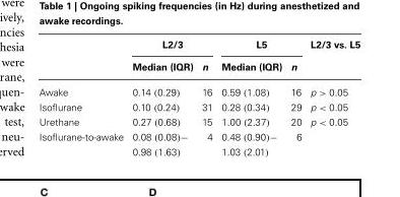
<table><thead><tr><td rowspan="2"></td><td colspan="2">L2/3</td><td colspan="2">L5</td><td rowspan="2">L2/3 vs. L5</td></tr><tr><td>Median (IQR)</td><td>n</td><td>Median (IQR)</td><td>n</td></tr></thead><tbody><tr><td>Awake</td><td>0.14 (0.29)</td><td>16</td><td>0.59 (1.08)</td><td>16</td><td>p &gt; 0.05</td></tr><tr><td>Isoflurane</td><td>0.10 (0.24)</td><td>31</td><td>0.28 (0.34)</td><td>29</td><td>p &lt; 0.05</td></tr><tr><td>Urethane</td><td>0.27 (0.68)</td><td>15</td><td>1.00 (2.37)</td><td>20</td><td>p &lt; 0.05</td></tr><tr><td>Isoflurane-to-awake</td><td>0.08 (0.08)− 0.98 (1.63)</td><td>4</td><td>0.48 (0.90)− 1.03 (2.01)</td><td>6</td><td></td></tr></tbody></table>